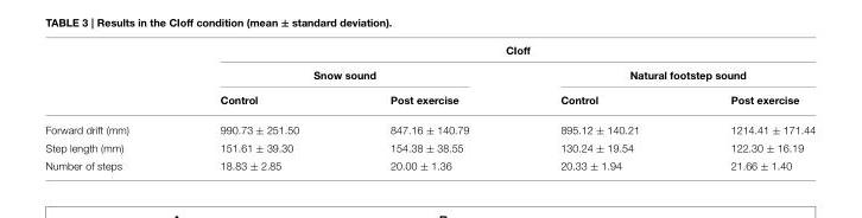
<table><thead><tr><td rowspan="3"></td><td colspan="4">CIoff</td></tr><tr><td colspan="2">Snow sound</td><td colspan="2">Natural footstep sound</td></tr><tr><td>Control</td><td>Post exercise</td><td>Control</td><td>Post exercise</td></tr></thead><tbody><tr><td>Forward drift (mm)</td><td>990.73 ± 251.50</td><td>847.16 ± 140.79</td><td>895.12 ± 140.21</td><td>1214.41 ± 171.44</td></tr><tr><td>Step length (mm)</td><td>151.61 ± 39.30</td><td>154.38 ± 38.55</td><td>130.24 ± 19.54</td><td>122.30 ± 16.19</td></tr><tr><td>Number of steps</td><td>18.83 ± 2.85</td><td>20.00 ± 1.36</td><td>20.33 ± 1.94</td><td>21.66 ± 1.40</td></tr></tbody></table>